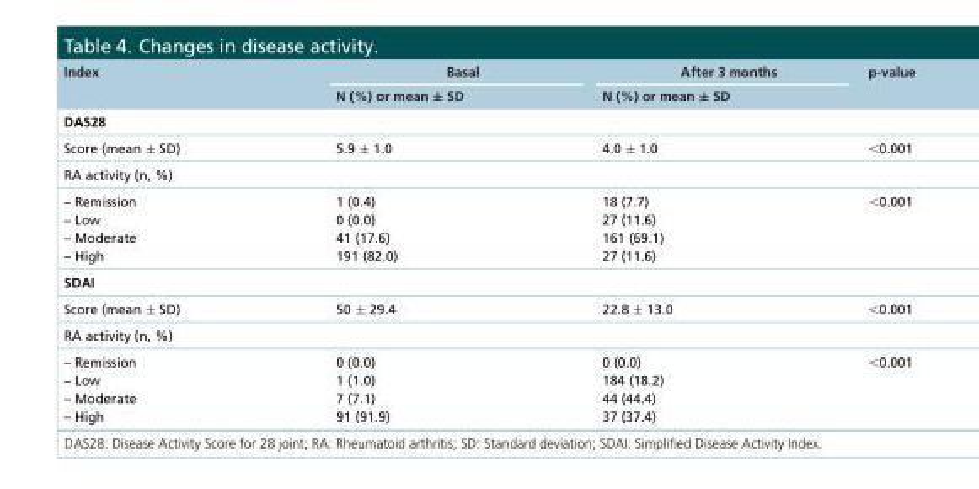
<table><thead><tr><td rowspan="2">Index</td><td rowspan="2">Basal N (%) or mean ± SD</td><td rowspan="2">After 3 months N (%) or mean ± SD</td><td rowspan="2">p-value</td></tr><tr></tr></thead><tbody><tr><td colspan="4">DAS28</td></tr><tr><td>Score (mean ± SD)</td><td>5.9 ± 1.0</td><td>4.0 ± 1.0</td><td>&lt;0.001</td></tr><tr><td colspan="4">RA activity (n, %)</td></tr><tr><td>– Remission – Low – Moderate – High</td><td>1 (0.4) 0 (0.0) 41 (17.6) 191 (82.0)</td><td>18 (7.7) 27 (11.6) 161 (69.1) 27 (11.6)</td><td>&lt;0.001</td></tr><tr><td colspan="4">SDAI</td></tr><tr><td>Score (mean ± SD)</td><td>50 ± 29.4</td><td>22.8 ± 13.0</td><td>&lt;0.001</td></tr><tr><td colspan="4">RA activity (n, %)</td></tr><tr><td>– Remission – Low – Moderate – High</td><td>0 (0.0) 1 (1.0) 7 (7.1) 91 (91.9)</td><td>0 (0.0) 184 (18.2) 44 (44.4) 37 (37.4)</td><td>&lt;0.001</td></tr></tbody></table>